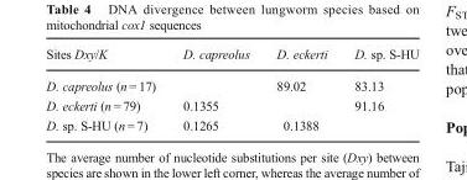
<table><thead><tr><td>Sites Dxy/K</td><td>D. capreolus</td><td>D. eckerti</td><td>D. sp. S-HU</td></tr></thead><tbody><tr><td>D. capreolus (n = 17)</td><td></td><td>89.02</td><td>83.13</td></tr><tr><td>D. eckerti (n = 79)</td><td>0.1355</td><td></td><td>91.16</td></tr><tr><td>D. sp. S-HU (n = 7)</td><td>0.1265</td><td>0.1388</td><td></td></tr></tbody></table>